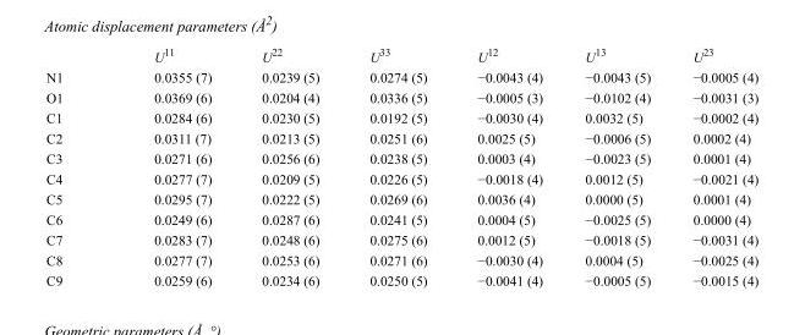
<table><thead><tr><td></td><td>U<sup>11</sup></td><td>U<sup>22</sup></td><td>U<sup>33</sup></td><td>U<sup>12</sup></td><td>U<sup>13</sup></td><td>U<sup>23</sup></td></tr></thead><tbody><tr><td>N1</td><td>0.0355 (7)</td><td>0.0239 (5)</td><td>0.0274 (5)</td><td>−0.0043 (4)</td><td>−0.0043 (5)</td><td>−0.0005 (4)</td></tr><tr><td>O1</td><td>0.0369 (6)</td><td>0.0204 (4)</td><td>0.0336 (5)</td><td>−0.0005 (3)</td><td>−0.0102 (4)</td><td>−0.0031 (3)</td></tr><tr><td>C1</td><td>0.0284 (6)</td><td>0.0230 (5)</td><td>0.0192 (5)</td><td>−0.0030 (4)</td><td>0.0032 (5)</td><td>−0.0002 (4)</td></tr><tr><td>C2</td><td>0.0311 (7)</td><td>0.0213 (5)</td><td>0.0251 (6)</td><td>0.0025 (5)</td><td>−0.0006 (5)</td><td>0.0002 (4)</td></tr><tr><td>C3</td><td>0.0271 (6)</td><td>0.0256 (6)</td><td>0.0238 (5)</td><td>0.0003 (4)</td><td>−0.0023 (5)</td><td>0.0001 (4)</td></tr><tr><td>C4</td><td>0.0277 (7)</td><td>0.0209 (5)</td><td>0.0226 (5)</td><td>−0.0018 (4)</td><td>0.0012 (5)</td><td>−0.0021 (4)</td></tr><tr><td>C5</td><td>0.0295 (7)</td><td>0.0222 (5)</td><td>0.0269 (6)</td><td>0.0036 (4)</td><td>0.0000 (5)</td><td>0.0001 (4)</td></tr><tr><td>C6</td><td>0.0249 (6)</td><td>0.0287 (6)</td><td>0.0241 (5)</td><td>0.0004 (5)</td><td>−0.0025 (5)</td><td>0.0000 (4)</td></tr><tr><td>C7</td><td>0.0283 (7)</td><td>0.0248 (6)</td><td>0.0275 (6)</td><td>0.0012 (5)</td><td>−0.0018 (5)</td><td>−0.0031 (4)</td></tr><tr><td>C8</td><td>0.0277 (7)</td><td>0.0253 (6)</td><td>0.0271 (6)</td><td>−0.0030 (4)</td><td>0.0004 (5)</td><td>−0.0025 (4)</td></tr><tr><td>C9</td><td>0.0259 (6)</td><td>0.0234 (6)</td><td>0.0250 (5)</td><td>−0.0041 (4)</td><td>−0.0005 (5)</td><td>−0.0015 (4)</td></tr></tbody></table>